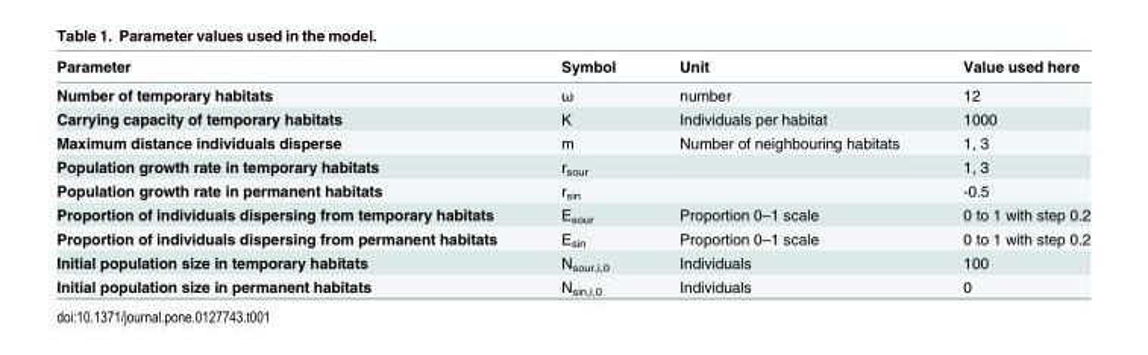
<table><thead><tr><td>Parameter</td><td>Symbol</td><td>Unit</td><td>Value used here</td></tr></thead><tbody><tr><td>Number of temporary habitats</td><td>ω</td><td>number</td><td>12</td></tr><tr><td>Carrying capacity of temporary habitats</td><td>K</td><td>Individuals per habitat</td><td>1000</td></tr><tr><td>Maximum distance individuals disperse</td><td>m</td><td>Number of neighbouring habitats</td><td>1, 3</td></tr><tr><td>Population growth rate in temporary habitats</td><td>r<sub>sour</sub></td><td></td><td>1, 3</td></tr><tr><td>Population growth rate in permanent habitats</td><td>r<sub>sin</sub></td><td></td><td>-0.5</td></tr><tr><td>Proportion of individuals dispersing from temporary habitats</td><td>E<sub>sour</sub></td><td>Proportion 0–1 scale</td><td>0 to 1 with step 0.2</td></tr><tr><td>Proportion of individuals dispersing from permanent habitats</td><td>E<sub>sin</sub></td><td>Proportion 0–1 scale</td><td>0 to 1 with step 0.2</td></tr><tr><td>Initial population size in temporary habitats</td><td>N<sub>sour,i,0</sub></td><td>Individuals</td><td>100</td></tr><tr><td>Initial population size in permanent habitats</td><td>N<sub>sin,i,0</sub></td><td>Individuals</td><td>0</td></tr></tbody></table>